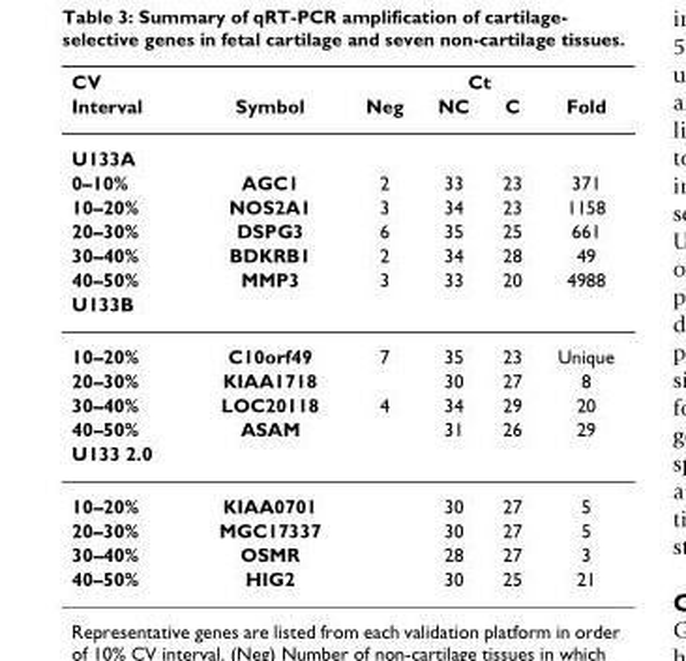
<table><thead><tr><td rowspan="2">CV Interval</td><td rowspan="2">Symbol</td><td rowspan="2">Neg</td><td colspan="2">Ct</td><td rowspan="2">Fold</td></tr><tr><td>NC</td><td>C</td></tr></thead><tbody><tr><td colspan="6">U133A</td></tr><tr><td>0–10%</td><td>AGC1</td><td>2</td><td>33</td><td>23</td><td>371</td></tr><tr><td>10–20%</td><td>NOS2A1</td><td>3</td><td>34</td><td>23</td><td>1158</td></tr><tr><td>20–30%</td><td>DSPG3</td><td>6</td><td>35</td><td>25</td><td>661</td></tr><tr><td>30–40%</td><td>BDKRB1</td><td>2</td><td>34</td><td>28</td><td>49</td></tr><tr><td>40–50%</td><td>MMP3</td><td>3</td><td>33</td><td>20</td><td>4988</td></tr><tr><td colspan="6">U133B</td></tr><tr><td>10–20%</td><td>C10orf49</td><td>7</td><td>35</td><td>23</td><td>Unique</td></tr><tr><td>20–30%</td><td>KIAA1718</td><td></td><td>30</td><td>27</td><td>8</td></tr><tr><td>30–40%</td><td>LOC20118</td><td>4</td><td>34</td><td>29</td><td>20</td></tr><tr><td>40–50%</td><td>ASAM</td><td></td><td>31</td><td>26</td><td>29</td></tr><tr><td colspan="6">U133 2.0</td></tr><tr><td>10–20%</td><td>KIAA0701</td><td></td><td>30</td><td>27</td><td>5</td></tr><tr><td>20–30%</td><td>MGC17337</td><td></td><td>30</td><td>27</td><td>5</td></tr><tr><td>30–40%</td><td>OSMR</td><td></td><td>28</td><td>27</td><td>3</td></tr><tr><td>40–50%</td><td>HIG2</td><td></td><td>30</td><td>25</td><td>21</td></tr></tbody></table>